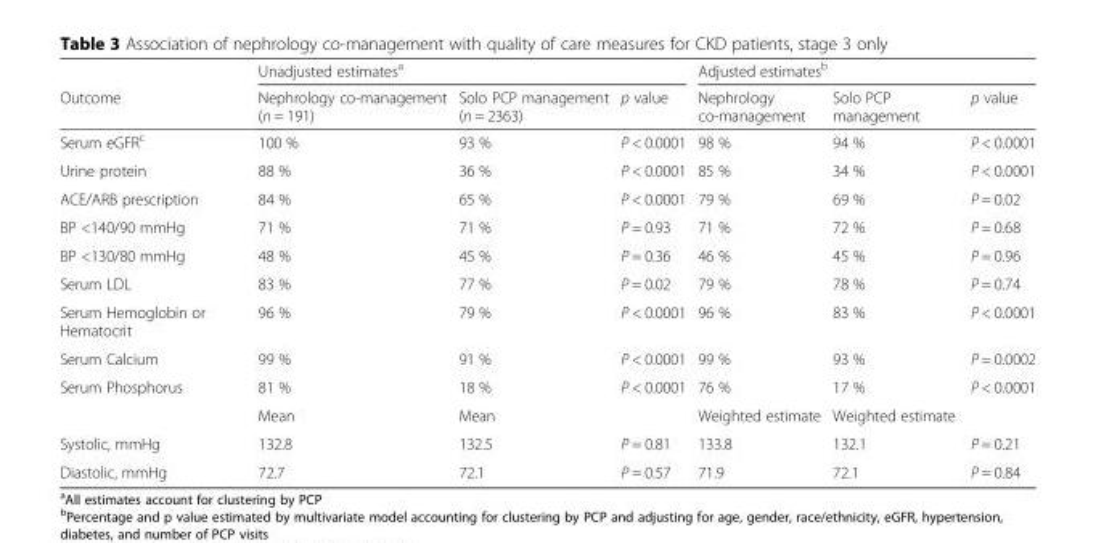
<table><thead><tr><td rowspan="2">Outcome</td><td colspan="3">Unadjusted estimates<sup>a</sup></td><td colspan="3">Adjusted estimates<sup>b</sup></td></tr><tr><td>Nephrology co-management (n = 191)</td><td>Solo PCP management (n = 2363)</td><td>p value</td><td>Nephrology co-management</td><td>Solo PCP management</td><td>p value</td></tr></thead><tbody><tr><td>Serum eGFR<sup>c</sup></td><td>100 %</td><td>93 %</td><td>P &lt; 0.0001</td><td>98 %</td><td>94 %</td><td>P &lt; 0.0001</td></tr><tr><td>Urine protein</td><td>88 %</td><td>36 %</td><td>P &lt; 0.0001</td><td>85 %</td><td>34 %</td><td>P &lt; 0.0001</td></tr><tr><td>ACE/ARB prescription</td><td>84 %</td><td>65 %</td><td>P &lt; 0.0001</td><td>79 %</td><td>69 %</td><td>P = 0.02</td></tr><tr><td>BP &lt;140/90 mmHg</td><td>71 %</td><td>71 %</td><td>P = 0.93</td><td>71 %</td><td>72 %</td><td>P = 0.68</td></tr><tr><td>BP &lt;130/80 mmHg</td><td>48 %</td><td>45 %</td><td>P = 0.36</td><td>46 %</td><td>45 %</td><td>P = 0.96</td></tr><tr><td>Serum LDL</td><td>83 %</td><td>77 %</td><td>P = 0.02</td><td>79 %</td><td>78 %</td><td>P = 0.74</td></tr><tr><td>Serum Hemoglobin or Hematocrit</td><td>96 %</td><td>79 %</td><td>P &lt; 0.0001</td><td>96 %</td><td>83 %</td><td>P &lt; 0.0001</td></tr><tr><td>Serum Calcium</td><td>99 %</td><td>91 %</td><td>P &lt; 0.0001</td><td>99 %</td><td>93 %</td><td>P = 0.0002</td></tr><tr><td rowspan="2">Serum Phosphorus</td><td>81 %</td><td>18 %</td><td>P &lt; 0.0001</td><td>76 %</td><td>17 %</td><td>P &lt; 0.0001</td></tr><tr><td>Mean</td><td>Mean</td><td></td><td>Weighted estimate</td><td>Weighted estimate</td><td></td></tr><tr><td>Systolic, mmHg</td><td>132.8</td><td>132.5</td><td>P = 0.81</td><td>133.8</td><td>132.1</td><td>P = 0.21</td></tr><tr><td>Diastolic, mmHg</td><td>72.7</td><td>72.1</td><td>P = 0.57</td><td>71.9</td><td>72.1</td><td>P = 0.84</td></tr></tbody></table>